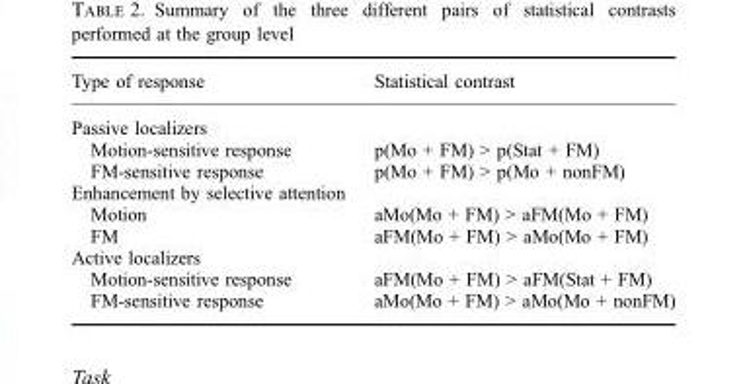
<table><thead><tr><td>Type of response</td><td>Statistical contrast</td></tr></thead><tbody><tr><td colspan="2">Passive localizers</td></tr><tr><td>Motion-sensitive response</td><td>p(Mo + FM) &gt; p(Stat + FM)</td></tr><tr><td>FM-sensitive response</td><td>p(Mo + FM) &gt; p(Mo + nonFM)</td></tr><tr><td colspan="2">Enhancement by selective attention</td></tr><tr><td>Motion</td><td>aMo(Mo + FM) &gt; aFM(Mo + FM)</td></tr><tr><td>FM</td><td>aFM(Mo + FM) &gt; aMo(Mo + FM)</td></tr><tr><td colspan="2">Active localizers</td></tr><tr><td>Motion-sensitive response</td><td>aFM(Mo + FM) &gt; aFM(Stat + FM)</td></tr><tr><td>FM-sensitive response</td><td>aMo(Mo + FM) &gt; aMo(Mo + nonFM)</td></tr></tbody></table>